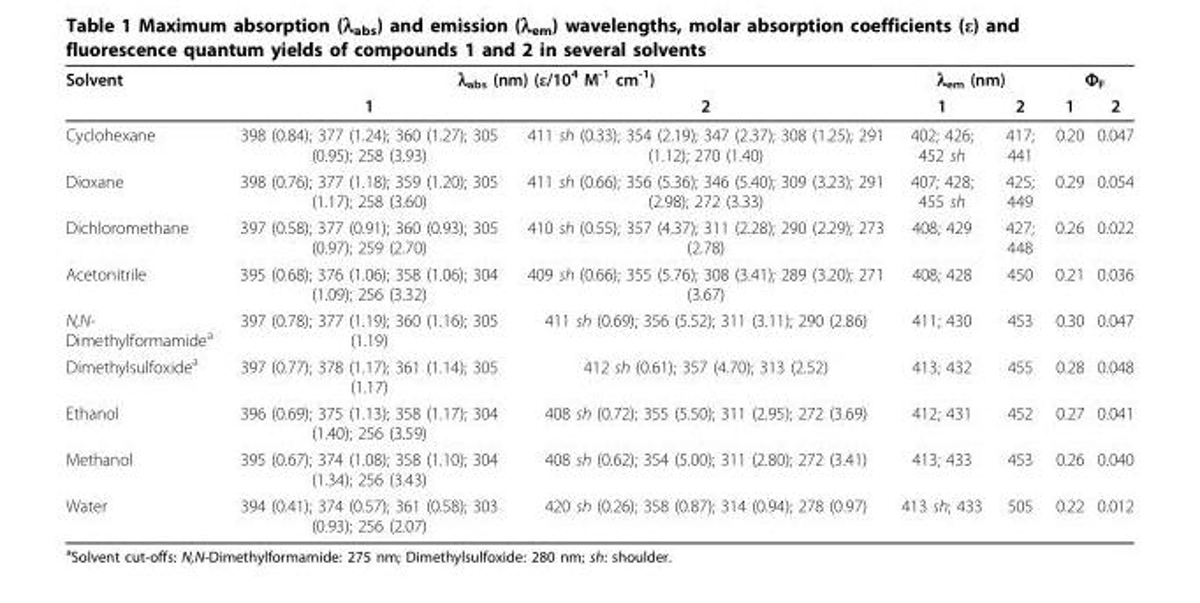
<table><thead><tr><td rowspan="2">Solvent</td><td colspan="2">λ<sub>abs</sub> (nm) (ε/10<sup>4</sup> M<sup>-1</sup> cm<sup>-1</sup>)</td><td colspan="2">λ<sub>em</sub> (nm)</td><td colspan="2">Φ<sub>F</sub></td></tr><tr><td>1</td><td>2</td><td>1</td><td>2</td><td>1</td><td>2</td></tr></thead><tbody><tr><td>Cyclohexane</td><td>398 (0.84); 377 (1.24); 360 (1.27); 305 (0.95); 258 (3.93)</td><td>411 sh (0.33); 354 (2.19); 347 (2.37); 308 (1.25); 291 (1.12); 270 (1.40)</td><td>402; 426; 452 sh</td><td>417; 441</td><td>0.20</td><td>0.047</td></tr><tr><td>Dioxane</td><td>398 (0.76); 377 (1.18); 359 (1.20); 305 (1.17); 258 (3.60)</td><td>411 sh (0.66); 356 (5.36); 346 (5.40); 309 (3.23); 291 (2.98); 272 (3.33)</td><td>407; 428; 455 sh</td><td>425; 449</td><td>0.29</td><td>0.054</td></tr><tr><td>Dichloromethane</td><td>397 (0.58); 377 (0.91); 360 (0.93); 305 (0.97); 259 (2.70)</td><td>410 sh (0.55); 357 (4.37); 311 (2.28); 290 (2.29); 273 (2.78)</td><td>408; 429</td><td>427; 448</td><td>0.26</td><td>0.022</td></tr><tr><td>Acetonitrile</td><td>395 (0.68); 376 (1.06); 358 (1.06); 304 (1.09); 256 (3.32)</td><td>409 sh (0.66); 355 (5.76); 308 (3.41); 289 (3.20); 271 (3.67)</td><td>408; 428</td><td>450</td><td>0.21</td><td>0.036</td></tr><tr><td>N,N- Dimethylformamide<sup>a</sup></td><td>397 (0.78); 377 (1.19); 360 (1.16); 305 (1.19)</td><td>411 sh (0.69); 356 (5.52); 311 (3.11); 290 (2.86)</td><td>411; 430</td><td>453</td><td>0.30</td><td>0.047</td></tr><tr><td>Dimethylsulfoxide<sup>a</sup></td><td>397 (0.77); 378 (1.17); 361 (1.14); 305 (1.17)</td><td>412 sh (0.61); 357 (4.70); 313 (2.52)</td><td>413; 432</td><td>455</td><td>0.28</td><td>0.048</td></tr><tr><td>Ethanol</td><td>396 (0.69); 375 (1.13); 358 (1.17); 304 (1.40); 256 (3.59)</td><td>408 sh (0.72); 355 (5.50); 311 (2.95); 272 (3.69)</td><td>412; 431</td><td>452</td><td>0.27</td><td>0.041</td></tr><tr><td>Methanol</td><td>395 (0.67); 374 (1.08); 358 (1.10); 304 (1.34); 256 (3.43)</td><td>408 sh (0.62); 354 (5.00); 311 (2.80); 272 (3.41)</td><td>413; 433</td><td>453</td><td>0.26</td><td>0.040</td></tr><tr><td>Water</td><td>394 (0.41); 374 (0.57); 361 (0.58); 303 (0.93); 256 (2.07)</td><td>420 sh (0.26); 358 (0.87); 314 (0.94); 278 (0.97)</td><td>413 sh; 433</td><td>505</td><td>0.22</td><td>0.012</td></tr></tbody></table>